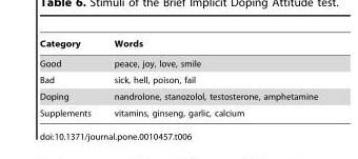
<table><thead><tr><td>Category</td><td>Words</td></tr></thead><tbody><tr><td>Good</td><td>peace, joy, love, smile</td></tr><tr><td>Bad</td><td>sick, hell, poison, fail</td></tr><tr><td>Doping</td><td>nandrolone, stanozolol, testosterone, amphetamine</td></tr><tr><td>Supplements</td><td>vitamins, ginseng, garlic, calcium</td></tr></tbody></table>